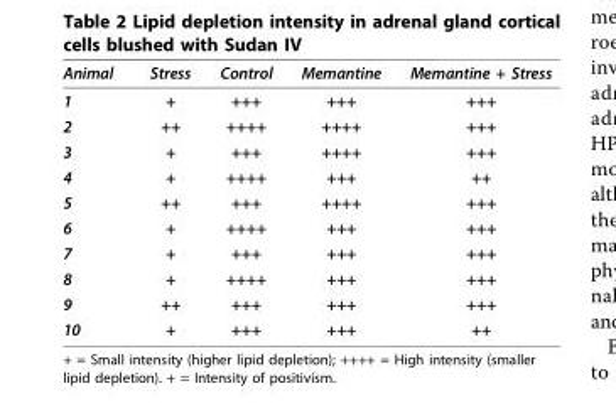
<table><thead><tr><td>Animal</td><td>Stress</td><td>Control</td><td>Memantine</td><td>Memantine + Stress</td></tr></thead><tbody><tr><td>1</td><td>+</td><td>+++</td><td>+++</td><td>+++</td></tr><tr><td>2</td><td>++</td><td>++++</td><td>++++</td><td>+++</td></tr><tr><td>3</td><td>+</td><td>+++</td><td>++++</td><td>+++</td></tr><tr><td>4</td><td>+</td><td>++++</td><td>+++</td><td>++</td></tr><tr><td>5</td><td>++</td><td>+++</td><td>++++</td><td>+++</td></tr><tr><td>6</td><td>+</td><td>++++</td><td>+++</td><td>+++</td></tr><tr><td>7</td><td>+</td><td>+++</td><td>+++</td><td>+++</td></tr><tr><td>8</td><td>+</td><td>++++</td><td>+++</td><td>+++</td></tr><tr><td>9</td><td>++</td><td>+++</td><td>+++</td><td>+++</td></tr><tr><td>10</td><td>+</td><td>+++</td><td>+++</td><td>++</td></tr></tbody></table>